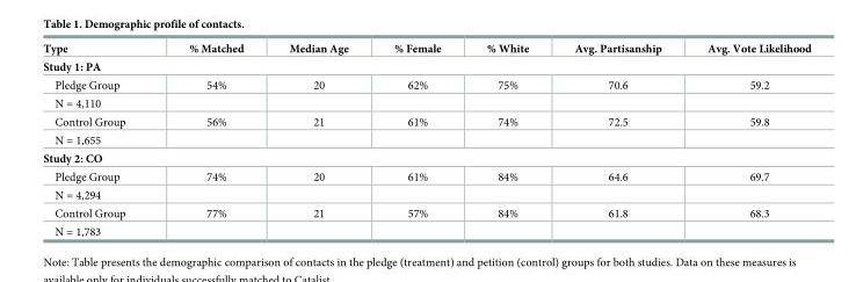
<table><thead><tr><td>Type</td><td>% Matched</td><td>Median Age</td><td>% Female</td><td>% White</td><td>Avg. Partisanship</td><td>Avg. Vote Likelihood</td></tr></thead><tbody><tr><td colspan="7">Study 1: PA</td></tr><tr><td>Pledge Group</td><td>54%</td><td>20</td><td>62%</td><td>75%</td><td>70.6</td><td>59.2</td></tr><tr><td colspan="7">N = 4,110</td></tr><tr><td>Control Group</td><td>56%</td><td>21</td><td>61%</td><td>74%</td><td>72.5</td><td>59.8</td></tr><tr><td colspan="7">N = 1,655</td></tr><tr><td colspan="7">Study 2: CO</td></tr><tr><td>Pledge Group</td><td>74%</td><td>20</td><td>61%</td><td>84%</td><td>64.6</td><td>69.7</td></tr><tr><td colspan="7">N = 4,294</td></tr><tr><td>Control Group</td><td>77%</td><td>21</td><td>57%</td><td>84%</td><td>61.8</td><td>68.3</td></tr><tr><td>N = 1,783</td><td></td><td></td><td></td><td></td><td></td><td></td></tr></tbody></table>